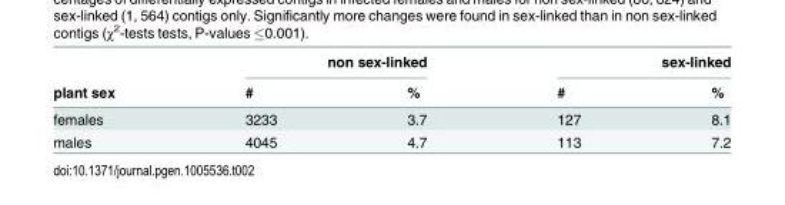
<table><thead><tr><td rowspan="2">plant sex</td><td colspan="2">non sex-linked</td><td colspan="2">sex-linked</td></tr><tr><td>#</td><td>%</td><td>#</td><td>%</td></tr></thead><tbody><tr><td>females</td><td>3233</td><td>3.7</td><td>127</td><td>8.1</td></tr><tr><td>males</td><td>4045</td><td>4.7</td><td>113</td><td>7.2</td></tr></tbody></table>